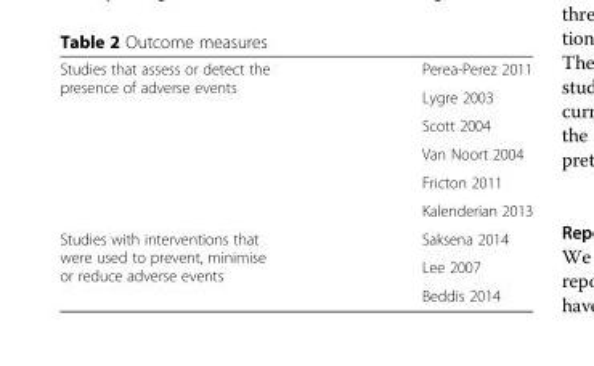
<table><tbody><tr><td rowspan="6">Studies that assess or detect the presence of adverse events</td><td>Perea-Perez 2011</td></tr><tr><td>Lygre 2003</td></tr><tr><td>Scott 2004</td></tr><tr><td>Van Noort 2004</td></tr><tr><td>Fricton 2011</td></tr><tr><td>Kalenderian 2013</td></tr><tr><td rowspan="3">Studies with interventions that were used to prevent, minimise or reduce adverse events</td><td>Saksena 2014</td></tr><tr><td>Lee 2007</td></tr><tr><td>Beddis 2014</td></tr></tbody></table>